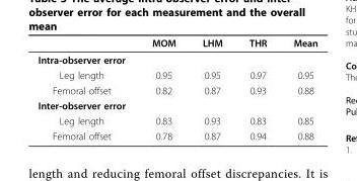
<table><thead><tr><td></td><td>MOM</td><td>LHM</td><td>THR</td><td>Mean</td></tr></thead><tbody><tr><td colspan="5">Intra-observer error</td></tr><tr><td>Leg length</td><td>0.95</td><td>0.95</td><td>0.97</td><td>0.95</td></tr><tr><td>Femoral offset</td><td>0.82</td><td>0.87</td><td>0.93</td><td>0.88</td></tr><tr><td colspan="5">Inter-observer error</td></tr><tr><td>Leg length</td><td>0.83</td><td>0.93</td><td>0.83</td><td>0.85</td></tr><tr><td>Femoral offset</td><td>0.78</td><td>0.87</td><td>0.94</td><td>0.88</td></tr></tbody></table>